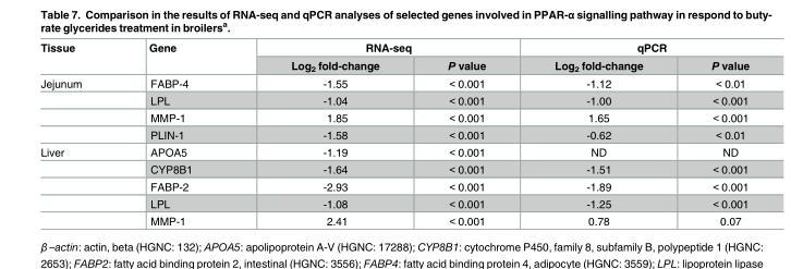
<table><thead><tr><td rowspan="2">Tissue</td><td rowspan="2">Gene</td><td colspan="2">RNA-seq</td><td colspan="2">qPCR</td></tr><tr><td>Log<sub>2</sub> fold-change</td><td>P value</td><td>Log<sub>2</sub> fold-change</td><td>P value</td></tr></thead><tbody><tr><td rowspan="4">Jejunum</td><td>FABP-4</td><td>-1.55</td><td>&lt; 0.001</td><td>-1.12</td><td>&lt; 0.01</td></tr><tr><td>LPL</td><td>-1.04</td><td>&lt; 0.001</td><td>-1.00</td><td>&lt; 0.001</td></tr><tr><td>MMP-1</td><td>1.85</td><td>&lt; 0.001</td><td>1.65</td><td>&lt; 0.001</td></tr><tr><td>PLIN-1</td><td>-1.58</td><td>&lt; 0.001</td><td>-0.62</td><td>&lt; 0.01</td></tr><tr><td rowspan="5">Liver</td><td>APOA5</td><td>-1.19</td><td>&lt; 0.001</td><td>ND</td><td>ND</td></tr><tr><td>CYP8B1</td><td>-1.64</td><td>&lt; 0.001</td><td>-1.51</td><td>&lt; 0.001</td></tr><tr><td>FABP-2</td><td>-2.93</td><td>&lt; 0.001</td><td>-1.89</td><td>&lt; 0.001</td></tr><tr><td>LPL</td><td>-1.08</td><td>&lt; 0.001</td><td>-1.25</td><td>&lt; 0.001</td></tr><tr><td>MMP-1</td><td>2.41</td><td>&lt; 0.001</td><td>0.78</td><td>0.07</td></tr></tbody></table>